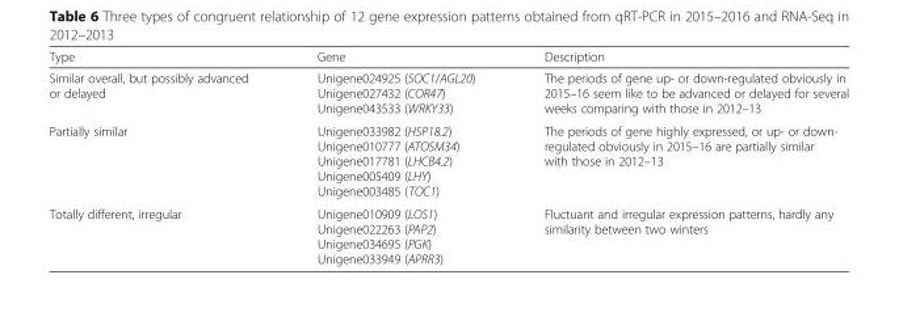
<table><thead><tr><td>Type</td><td>Gene</td><td>Description</td></tr></thead><tbody><tr><td>Similar overall, but possibly advanced or delayed</td><td>Unigene024925 (SOC1/AGL20) Unigene027432 (COR47) Unigene043533 (WRKY33)</td><td>The periods of gene up- or down-regulated obviously in 2015–16 seem like to be advanced or delayed for several weeks comparing with those in 2012–13</td></tr><tr><td>Partially similar</td><td>Unigene033982 (HSP18.2) Unigene010777 (ATOSM34) Unigene017781 (LHCB4.2) Unigene005409 (LHY) Unigene003485 (TOC1)</td><td>The periods of gene highly expressed, or up- or down- regulated obviously in 2015–16 are partially similar with those in 2012–13</td></tr><tr><td>Totally different, irregular</td><td>Unigene010909 (LOS1) Unigene022263 (PAP2) Unigene034695 (PGK) Unigene033949 (APRR3)</td><td>Fluctuant and irregular expression patterns, hardly any similarity between two winters</td></tr></tbody></table>